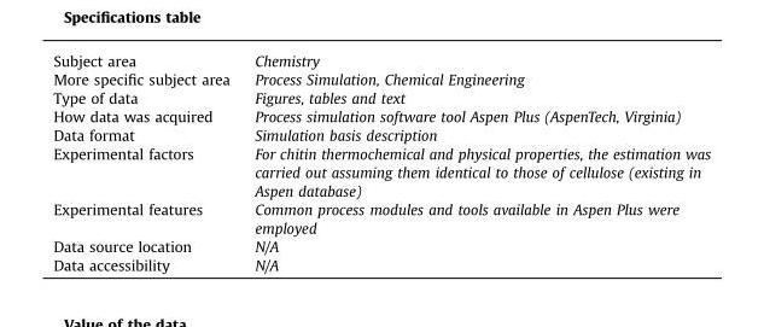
<table><tbody><tr><td>Subject area</td><td>Chemistry</td></tr><tr><td>More specific subject area</td><td>Process Simulation, Chemical Engineering</td></tr><tr><td>Type of data</td><td>Figures, tables and text</td></tr><tr><td>How data was acquired</td><td>Process simulation software tool Aspen Plus (AspenTech, Virginia)</td></tr><tr><td>Data format</td><td>Simulation basis description</td></tr><tr><td>Experimental factors</td><td>For chitin thermochemical and physical properties, the estimation was carried out assuming them identical to those of cellulose (existing in Aspen database)</td></tr><tr><td>Experimental features</td><td>Common process modules and tools available in Aspen Plus were employed</td></tr><tr><td>Data source location</td><td>N/A</td></tr><tr><td>Data accessibility</td><td>N/A</td></tr></tbody></table>